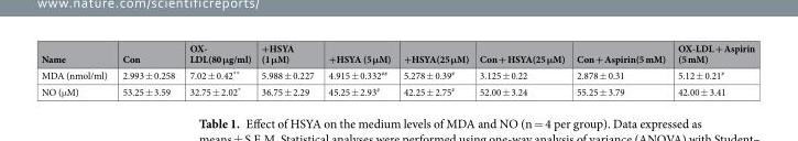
<table><thead><tr><td>Name</td><td>Con</td><td>OX- LDL(80 μg/ml)</td><td>+HSYA (1 μM)</td><td>+HSYA (5 μM)</td><td>+HSYA(25 μM)</td><td>Con + HSYA(25 μM)</td><td>Con + Aspirin(5 mM)</td><td>OX-LDL + Aspirin (5 mM)</td></tr></thead><tbody><tr><td>MDA (nmol/ml)</td><td>2.993 ± 0.258</td><td>7.02 ± 0.42**</td><td>5.988 ± 0.227</td><td>4.915 ± 0.332<sup>##</sup></td><td>5.278 ± 0.39<sup>#</sup></td><td>3.125 ± 0.22</td><td>2.878 ± 0.31</td><td>5.12 ± 0.21<sup>#</sup></td></tr><tr><td>NO (μM)</td><td>53.25 ± 3.59</td><td>32.75 ± 2.02*</td><td>36.75 ± 2.29</td><td>45.25 ± 2.93<sup>#</sup></td><td>42.25 ± 2.75<sup>#</sup></td><td>52.00 ± 3.24</td><td>55.25 ± 3.79</td><td>42.00 ± 3.41</td></tr></tbody></table>